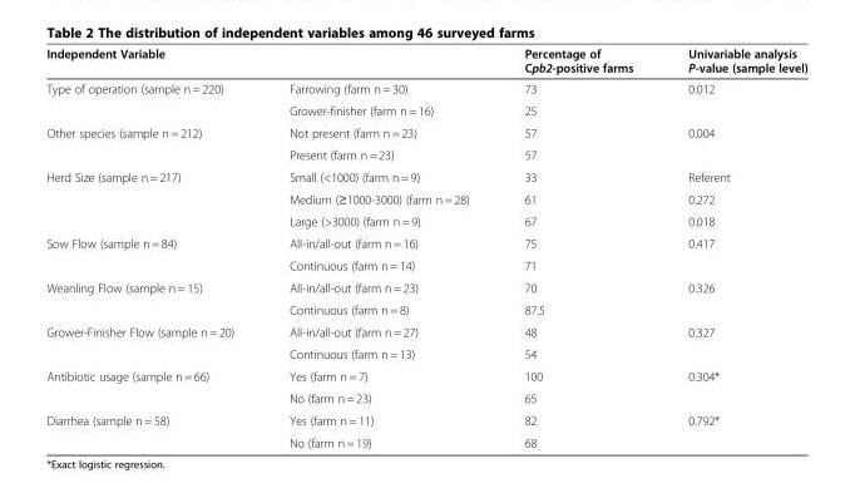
<table><thead><tr><td colspan="2">Independent Variable</td><td rowspan="2">Percentage of Cpb2-positive farms 73</td><td rowspan="2">Univariable analysis P-value (sample level) 0.012</td></tr><tr><td>Type of operation (sample n = 220)</td><td>Farrowing (farm n = 30)</td></tr></thead><tbody><tr><td></td><td>Grower-finisher (farm n = 16)</td><td>25</td><td></td></tr><tr><td rowspan="2">Other species (sample n = 212)</td><td>Not present (farm n = 23)</td><td>57</td><td>0.004</td></tr><tr><td>Present (farm n = 23)</td><td>57</td><td></td></tr><tr><td rowspan="3">Herd Size (sample n = 217)</td><td>Small (&lt;1000) (farm n = 9)</td><td>33</td><td>Referent</td></tr><tr><td>Medium (≥1000-3000) (farm n = 28)</td><td>61</td><td>0.272</td></tr><tr><td>Large (&gt;3000) (farm n = 9)</td><td>67</td><td>0.018</td></tr><tr><td rowspan="2">Sow Flow (sample n = 84)</td><td>All-in/all-out (farm n = 16)</td><td>75</td><td>0.417</td></tr><tr><td>Continuous (farm n = 14)</td><td>71</td><td></td></tr><tr><td rowspan="2">Weanling Flow (sample n = 15)</td><td>All-in/all-out (farm n = 23)</td><td>70</td><td>0.326</td></tr><tr><td>Continuous (farm n = 8)</td><td>87.5</td><td></td></tr><tr><td rowspan="2">Grower-Finisher Flow (sample n = 20)</td><td>All-in/all-out (farm n = 27)</td><td>48</td><td>0.327</td></tr><tr><td>Continuous (farm n = 13)</td><td>54</td><td></td></tr><tr><td rowspan="2">Antibiotic usage (sample n = 66)</td><td>Yes (farm n = 7)</td><td>100</td><td>0.304*</td></tr><tr><td>No (farm n = 23)</td><td>65</td><td></td></tr><tr><td rowspan="2">Diarrhea (sample n = 58)</td><td>Yes (farm n = 11)</td><td>82</td><td>0.792*</td></tr><tr><td>No (farm n = 19)</td><td>68</td><td></td></tr></tbody></table>